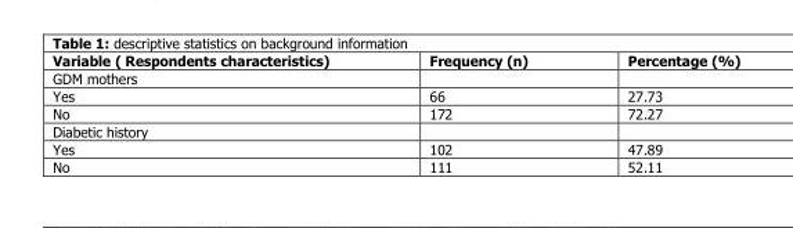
<table><thead><tr><td>Variable ( Respondents characteristics)</td><td>Frequency (n)</td><td>Percentage (%)</td></tr></thead><tbody><tr><td colspan="3">GDM mothers</td></tr><tr><td>Yes</td><td>66</td><td>27.73</td></tr><tr><td>No</td><td>172</td><td>72.27</td></tr><tr><td colspan="3">Diabetic history</td></tr><tr><td>Yes</td><td>102</td><td>47.89</td></tr><tr><td>No</td><td>111</td><td>52.11</td></tr></tbody></table>